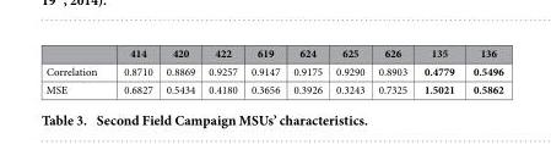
<table><thead><tr><td></td><td>414</td><td>420</td><td>422</td><td>619</td><td>624</td><td>625</td><td>626</td><td>135</td><td>136</td></tr></thead><tbody><tr><td>Correlation</td><td>0.8710</td><td>0.8869</td><td>0.9257</td><td>0.9147</td><td>0.9175</td><td>0.9290</td><td>0.8903</td><td>0.4779</td><td>0.5496</td></tr><tr><td>MSE</td><td>0.6827</td><td>0.5434</td><td>0.4180</td><td>0.3656</td><td>0.3926</td><td>0.3243</td><td>0.7325</td><td>1.5021</td><td>0.5862</td></tr></tbody></table>